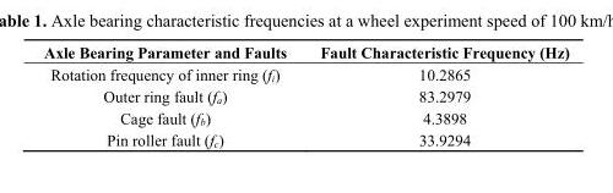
<table><thead><tr><td>Axle Bearing Parameter and Faults</td><td>Fault Characteristic Frequency (Hz)</td></tr></thead><tbody><tr><td>Rotation frequency of inner ring (f<sub>i</sub>)</td><td>10.2865</td></tr><tr><td>Outer ring fault (f<sub>a</sub>)</td><td>83.2979</td></tr><tr><td>Cage fault (f<sub>b</sub>)</td><td>4.3898</td></tr><tr><td>Pin roller fault (f<sub>c</sub>)</td><td>33.9294</td></tr></tbody></table>